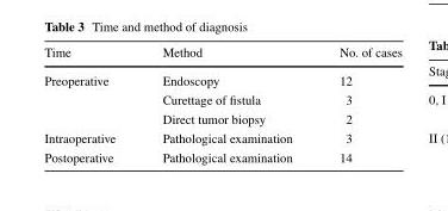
<table><thead><tr><td>Time</td><td>Method</td><td>No. of cases</td></tr></thead><tbody><tr><td rowspan="3">Preoperative</td><td>Endoscopy</td><td>12</td></tr><tr><td>Curettage of fistula</td><td>3</td></tr><tr><td>Direct tumor biopsy</td><td>2</td></tr><tr><td>Intraoperative</td><td>Pathological examination</td><td>3</td></tr><tr><td>Postoperative</td><td>Pathological examination</td><td>14</td></tr></tbody></table>